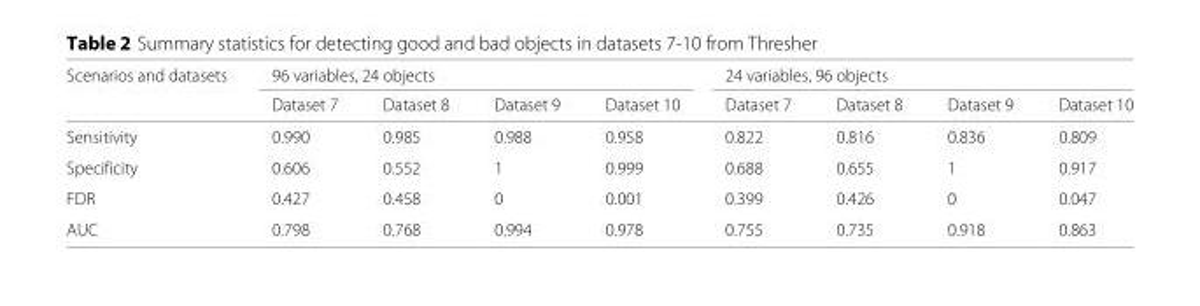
<table><thead><tr><td rowspan="2">Scenarios and datasets</td><td colspan="4">96 variables, 24 objects</td><td colspan="4">24 variables, 96 objects</td></tr><tr><td>Dataset 7</td><td>Dataset 8</td><td>Dataset 9</td><td>Dataset 10</td><td>Dataset 7</td><td>Dataset 8</td><td>Dataset 9</td><td>Dataset 10</td></tr></thead><tbody><tr><td>Sensitivity</td><td>0.990</td><td>0.985</td><td>0.988</td><td>0.958</td><td>0.822</td><td>0.816</td><td>0.836</td><td>0.809</td></tr><tr><td>Specificity</td><td>0.606</td><td>0.552</td><td>1</td><td>0.999</td><td>0.688</td><td>0.655</td><td>1</td><td>0.917</td></tr><tr><td>FDR</td><td>0.427</td><td>0.458</td><td>0</td><td>0.001</td><td>0.399</td><td>0.426</td><td>0</td><td>0.047</td></tr><tr><td>AUC</td><td>0.798</td><td>0.768</td><td>0.994</td><td>0.978</td><td>0.755</td><td>0.735</td><td>0.918</td><td>0.863</td></tr></tbody></table>